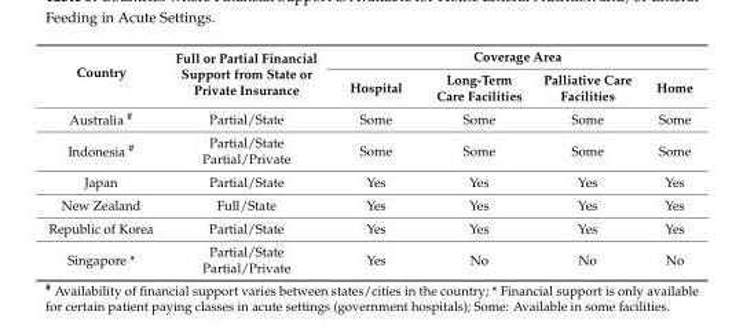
<table><thead><tr><td rowspan="2">Country</td><td rowspan="2">Full or Partial Financial Support from State or Private Insurance</td><td colspan="4">Coverage Area</td></tr><tr><td>Hospital</td><td>Long-Term Care Facilities</td><td>Palliative Care Facilities</td><td>Home</td></tr></thead><tbody><tr><td>Australia <sup>#</sup></td><td>Partial/State</td><td>Some</td><td>Some</td><td>Some</td><td>Some</td></tr><tr><td>Indonesia <sup>#</sup></td><td>Partial/State Partial/Private</td><td>Some</td><td>Some</td><td>Some</td><td>Some</td></tr><tr><td>Japan</td><td>Partial/State</td><td>Yes</td><td>Yes</td><td>Yes</td><td>Yes</td></tr><tr><td>New Zealand</td><td>Full/State</td><td>Yes</td><td>Yes</td><td>Yes</td><td>Yes</td></tr><tr><td>Republic of Korea</td><td>Partial/State</td><td>Yes</td><td>Yes</td><td>Yes</td><td>Yes</td></tr><tr><td>Singapore *</td><td>Partial/State Partial/Private</td><td>Yes</td><td>No</td><td>No</td><td>No</td></tr></tbody></table>